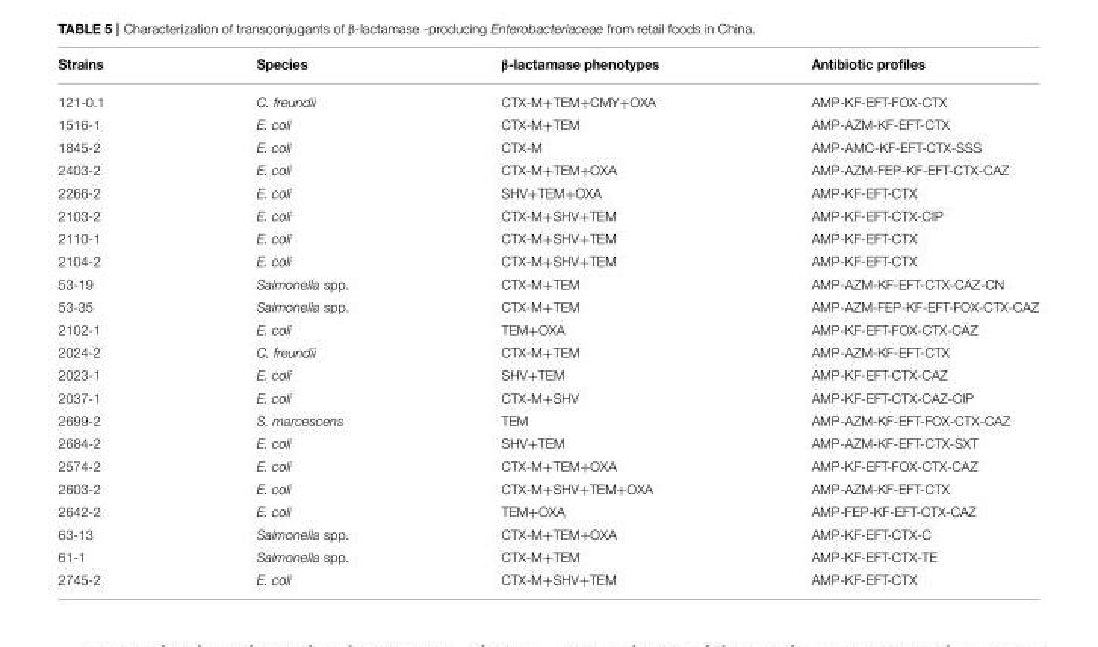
<table><thead><tr><td>Strains</td><td>Species</td><td>β-lactamase phenotypes</td><td>Antibiotic profiles</td></tr></thead><tbody><tr><td>121-0.1</td><td>C. freundii</td><td>CTX-M+TEM+CMY+OXA</td><td>AMP-KF-EFT-FOX-CTX</td></tr><tr><td>1516-1</td><td>E. coli</td><td>CTX-M+TEM</td><td>AMP-AZM-KF-EFT-CTX</td></tr><tr><td>1845-2</td><td>E. coli</td><td>CTX-M</td><td>AMP-AMC-KF-EFT-CTX-SSS</td></tr><tr><td>2403-2</td><td>E. coli</td><td>CTX-M+TEM+OXA</td><td>AMP-AZM-FEP-KF-EFT-CTX-CAZ</td></tr><tr><td>2266-2</td><td>E. coli</td><td>SHV+TEM+OXA</td><td>AMP-KF-EFT-CTX</td></tr><tr><td>2103-2</td><td>E. coli</td><td>CTX-M+SHV+TEM</td><td>AMP-KF-EFT-CTX-CIP</td></tr><tr><td>2110-1</td><td>E. coli</td><td>CTX-M+SHV+TEM</td><td>AMP-KF-EFT-CTX</td></tr><tr><td>2104-2</td><td>E. coli</td><td>CTX-M+SHV+TEM</td><td>AMP-KF-EFT-CTX</td></tr><tr><td>53-19</td><td>Salmonella spp.</td><td>CTX-M+TEM</td><td>AMP-AZM-KF-EFT-CTX-CAZ-CN</td></tr><tr><td>53-35</td><td>Salmonella spp.</td><td>CTX-M+TEM</td><td>AMP-AZM-FEP-KF-EFT-FOX-CTX-CAZ</td></tr><tr><td>2102-1</td><td>E. coli</td><td>TEM+OXA</td><td>AMP-KF-EFT-FOX-CTX-CAZ</td></tr><tr><td>2024-2</td><td>C. freundii</td><td>CTX-M+TEM</td><td>AMP-AZM-KF-EFT-CTX</td></tr><tr><td>2023-1</td><td>E. coli</td><td>SHV+TEM</td><td>AMP-KF-EFT-CTX-CAZ</td></tr><tr><td>2037-1</td><td>E. coli</td><td>CTX-M+SHV</td><td>AMP-KF-EFT-CTX-CAZ-CIP</td></tr><tr><td>2699-2</td><td>S. marcescens</td><td>TEM</td><td>AMP-AZM-KF-EFT-FOX-CTX-CAZ</td></tr><tr><td>2684-2</td><td>E. coli</td><td>SHV+TEM</td><td>AMP-AZM-KF-EFT-CTX-SXT</td></tr><tr><td>2574-2</td><td>E. coli</td><td>CTX-M+TEM+OXA</td><td>AMP-KF-EFT-FOX-CTX-CAZ</td></tr><tr><td>2603-2</td><td>E. coli</td><td>CTX-M+SHV+TEM+OXA</td><td>AMP-AZM-KF-EFT-CTX</td></tr><tr><td>2642-2</td><td>E. coli</td><td>TEM+OXA</td><td>AMP-FEP-KF-EFT-CTX-CAZ</td></tr><tr><td>63-13</td><td>Salmonella spp.</td><td>CTX-M+TEM+OXA</td><td>AMP-KF-EFT-CTX-C</td></tr><tr><td>61-1</td><td>Salmonella spp.</td><td>CTX-M+TEM</td><td>AMP-KF-EFT-CTX-TE</td></tr><tr><td>2745-2</td><td>E. coli</td><td>CTX-M+SHV+TEM</td><td>AMP-KF-EFT-CTX</td></tr></tbody></table>